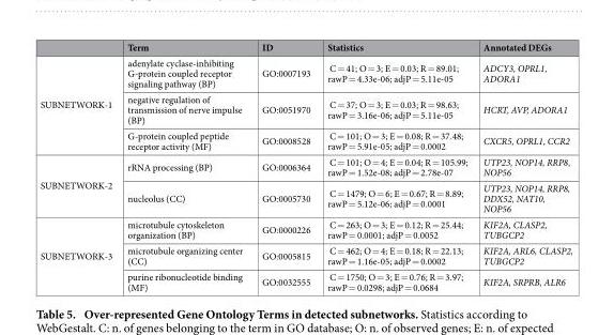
<table><thead><tr><td></td><td>Term</td><td>ID</td><td>Statistics</td><td>Annotated DEGs</td></tr></thead><tbody><tr><td rowspan="3">SUBNETWORK-1</td><td>adenylate cyclase-inhibiting G-protein coupled receptor signaling pathway (BP)</td><td>GO:0007193</td><td>C = 41; O = 3; E = 0.03; R = 89.01; rawP = 4.33e-06; adjP = 5.11e-05</td><td>ADCY3, OPRL1, ADORA1</td></tr><tr><td>negative regulation of transmission of nerve impulse (BP)</td><td>GO:0051970</td><td>C = 37; O = 3; E = 0.03; R = 98.63; rawP = 3.16e-06; adjP = 5.11e-05</td><td>HCRT, AVP, ADORA1</td></tr><tr><td>G-protein coupled peptide receptor activity (MF)</td><td>GO:0008528</td><td>C = 101; O = 3; E = 0.08; R = 37.48; rawP = 5.91e-05; adjP = 0.0002</td><td>CXCR5, OPRL1, CCR2</td></tr><tr><td rowspan="2">SUBNETWORK-2</td><td>rRNA processing (BP)</td><td>GO:0006364</td><td>C = 101; O = 4; E = 0.04; R = 105.99; rawP = 1.52e-08; adjP = 2.78e-07</td><td>UTP23, NOP14, RRP8, NOP56</td></tr><tr><td>nucleolus (CC)</td><td>GO:0005730</td><td>C = 1479; O = 6; E = 0.67; R = 8.89; rawP = 5.12e-06; adjP = 0.0001</td><td>UTP23, NOP14, RRP8, DDX52, NAT10, NOP56</td></tr><tr><td rowspan="3">SUBNETWORK-3</td><td>microtubule cytoskeleton organization (BP)</td><td>GO:0000226</td><td>C = 263; O = 3; E = 0.12; R = 25.44; rawP = 0.0001; adjP = 0.0052</td><td>KIF2A, CLASP2, TUBGCP2</td></tr><tr><td>microtubule organizing center (CC)</td><td>GO:0005815</td><td>C = 462; O = 4; E = 0.18; R = 22.13; rawP = 1.16e-05; adjP = 0.0002</td><td>KIF2A, ARL6, CLASP2, TUBGCP2</td></tr><tr><td>purine ribonucleotide binding (MF)</td><td>GO:0032555</td><td>C = 1750; O = 3; E = 0.76; R = 3.97; rawP = 0.0298; adjP = 0.0684</td><td>KIF2A, SRPRB, ALR6</td></tr></tbody></table>